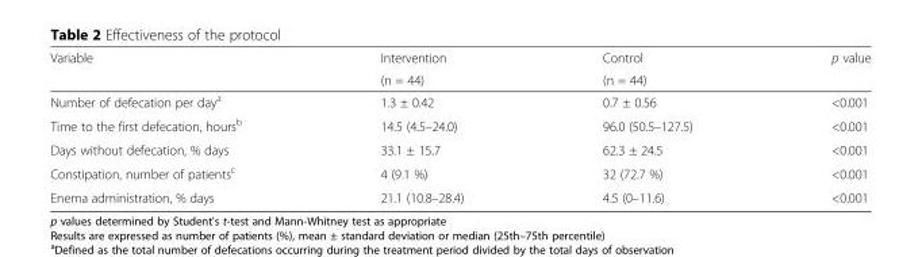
<table><thead><tr><td rowspan="2">Variable</td><td rowspan="2">Intervention (n = 44)</td><td rowspan="2">Control (n = 44)</td><td rowspan="2">p value</td></tr><tr></tr></thead><tbody><tr><td>Number of defecation per day<sup>a</sup></td><td>1.3 ± 0.42</td><td>0.7 ± 0.56</td><td>&lt;0.001</td></tr><tr><td>Time to the first defecation, hours<sup>b</sup></td><td>14.5 (4.5–24.0)</td><td>96.0 (50.5–127.5)</td><td>&lt;0.001</td></tr><tr><td>Days without defecation, % days</td><td>33.1 ± 15.7</td><td>62.3 ± 24.5</td><td>&lt;0.001</td></tr><tr><td>Constipation, number of patients<sup>c</sup></td><td>4 (9.1 %)</td><td>32 (72.7 %)</td><td>&lt;0.001</td></tr><tr><td>Enema administration, % days</td><td>21.1 (10.8–28.4)</td><td>4.5 (0–11.6)</td><td>&lt;0.001</td></tr></tbody></table>